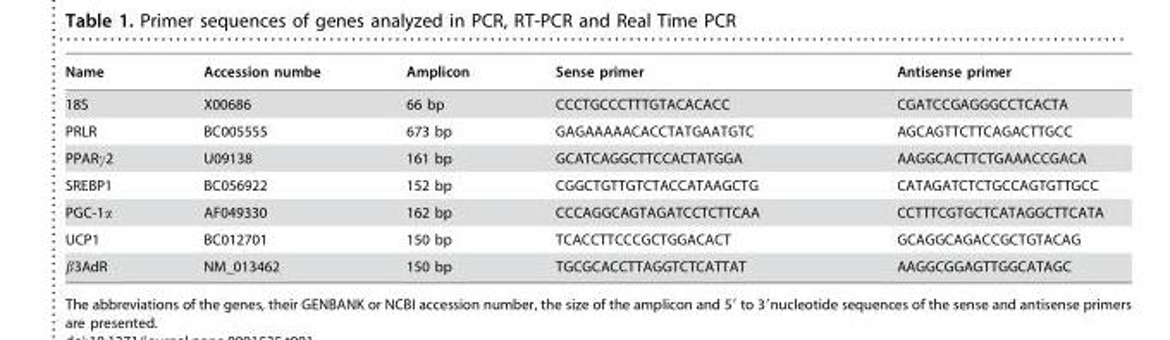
<table><thead><tr><td>Name</td><td>Accession numbe</td><td>Amplicon</td><td>Sense primer</td><td>Antisense primer</td></tr></thead><tbody><tr><td>18S</td><td>X00686</td><td>66 bp</td><td>CCCTGCCCTTTGTACACACC</td><td>CGATCCGAGGGCCTCACTA</td></tr><tr><td>PRLR</td><td>BC005555</td><td>673 bp</td><td>GAGAAAAACACCTATGAATGTC</td><td>AGCAGTTCTTCAGACTTGCC</td></tr><tr><td>PPARγ2</td><td>U09138</td><td>161 bp</td><td>GCATCAGGCTTCCACTATGGA</td><td>AAGGCACTTCTGAAACCGACA</td></tr><tr><td>SREBP1</td><td>BC056922</td><td>152 bp</td><td>CGGCTGTTGTCTACCATAAGCTG</td><td>CATAGATCTCTGCCAGTGTTGCC</td></tr><tr><td>PGC-1α</td><td>AF049330</td><td>162 bp</td><td>CCCAGGCAGTAGATCCTCTTCAA</td><td>CCTTTCGTGCTCATAGGCTTCATA</td></tr><tr><td>UCP1</td><td>BC012701</td><td>150 bp</td><td>TCACCTTCCCGCTGGACACT</td><td>GCAGGCAGACCGCTGTACAG</td></tr><tr><td>β3AdR</td><td>NM_013462</td><td>150 bp</td><td>TGCGCACCTTAGGTCTCATTAT</td><td>AAGGCGGAGTTGGCATAGC</td></tr></tbody></table>